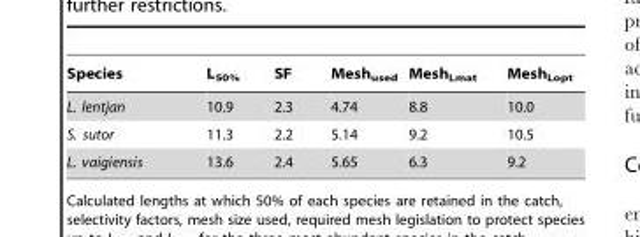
<table><thead><tr><td>Species</td><td>L<sub>50%</sub></td><td>SF</td><td>Mesh<sub>used</sub></td><td>Mesh<sub>Lmat</sub></td><td>Mesh<sub>Lopt</sub></td></tr></thead><tbody><tr><td>L. lentjan</td><td>10.9</td><td>2.3</td><td>4.74</td><td>8.8</td><td>10.0</td></tr><tr><td>S. sutor</td><td>11.3</td><td>2.2</td><td>5.14</td><td>9.2</td><td>10.5</td></tr><tr><td>L. vaigiensis</td><td>13.6</td><td>2.4</td><td>5.65</td><td>6.3</td><td>9.2</td></tr></tbody></table>